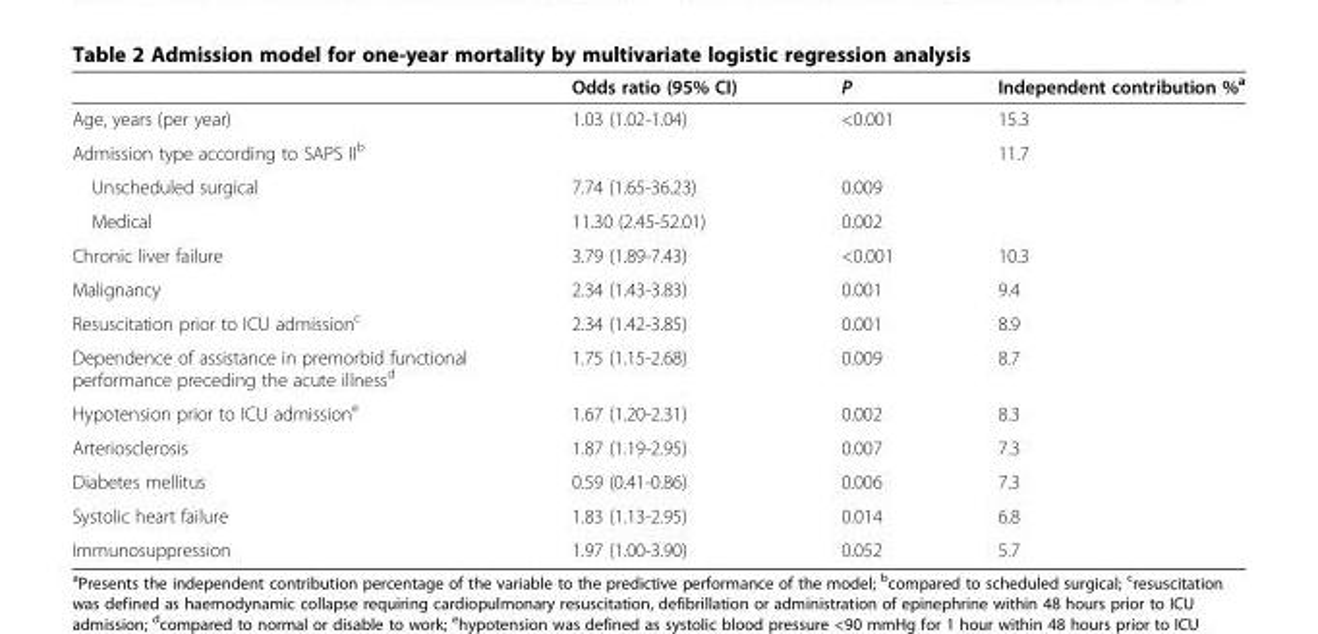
<table><thead><tr><td></td><td>Odds ratio (95% CI)</td><td>P</td><td>Independent contribution %<sup>a</sup></td></tr></thead><tbody><tr><td>Age, years (per year)</td><td>1.03 (1.02-1.04)</td><td>&lt;0.001</td><td>15.3</td></tr><tr><td>Admission type according to SAPS II<sup>b</sup></td><td></td><td></td><td>11.7</td></tr><tr><td>Unscheduled surgical</td><td>7.74 (1.65-36.23)</td><td>0.009</td><td></td></tr><tr><td>Medical</td><td>11.30 (2.45-52.01)</td><td>0.002</td><td></td></tr><tr><td>Chronic liver failure</td><td>3.79 (1.89-7.43)</td><td>&lt;0.001</td><td>10.3</td></tr><tr><td>Malignancy</td><td>2.34 (1.43-3.83)</td><td>0.001</td><td>9.4</td></tr><tr><td>Resuscitation prior to ICU admission<sup>c</sup></td><td>2.34 (1.42-3.85)</td><td>0.001</td><td>8.9</td></tr><tr><td>Dependence of assistance in premorbid functional performance preceding the acute illness<sup>d</sup></td><td>1.75 (1.15-2.68)</td><td>0.009</td><td>8.7</td></tr><tr><td>Hypotension prior to ICU admission<sup>e</sup></td><td>1.67 (1.20-2.31)</td><td>0.002</td><td>8.3</td></tr><tr><td>Arteriosclerosis</td><td>1.87 (1.19-2.95)</td><td>0.007</td><td>7.3</td></tr><tr><td>Diabetes mellitus</td><td>0.59 (0.41-0.86)</td><td>0.006</td><td>7.3</td></tr><tr><td>Systolic heart failure</td><td>1.83 (1.13-2.95)</td><td>0.014</td><td>6.8</td></tr><tr><td>Immunosuppression</td><td>1.97 (1.00-3.90)</td><td>0.052</td><td>5.7</td></tr></tbody></table>